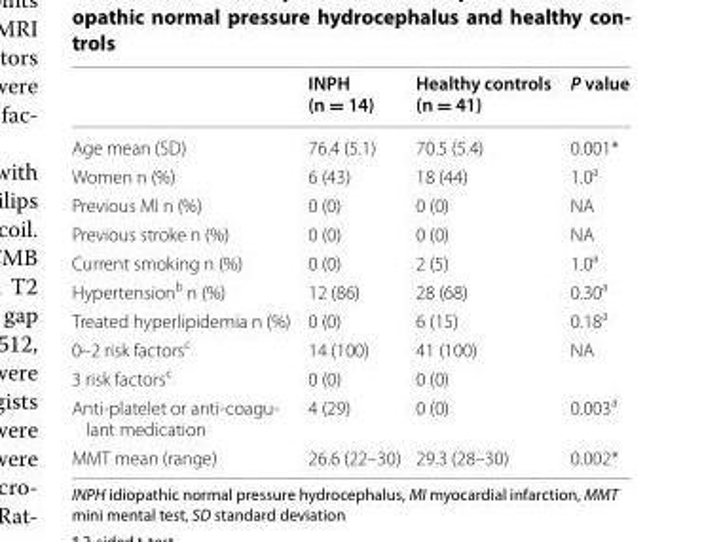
<table><thead><tr><td></td><td>INPH (n = 14)</td><td>Healthy controls (n = 41)</td><td>P value</td></tr></thead><tbody><tr><td>Age mean (SD)</td><td>76.4 (5.1)</td><td>70.5 (5.4)</td><td>0.001*</td></tr><tr><td>Women n (%)</td><td>6 (43)</td><td>18 (44)</td><td>1.0<sup>a</sup></td></tr><tr><td>Previous MI n (%)</td><td>0 (0)</td><td>0 (0)</td><td>NA</td></tr><tr><td>Previous stroke n (%)</td><td>0 (0)</td><td>0 (0)</td><td>NA</td></tr><tr><td>Current smoking n (%)</td><td>0 (0)</td><td>2 (5)</td><td>1.0<sup>a</sup></td></tr><tr><td>Hypertension<sup>b</sup> n (%)</td><td>12 (86)</td><td>28 (68)</td><td>0.30<sup>a</sup></td></tr><tr><td>Treated hyperlipidemia n (%)</td><td>0 (0)</td><td>6 (15)</td><td>0.18<sup>a</sup></td></tr><tr><td>0–2 risk factors<sup>c</sup></td><td>14 (100)</td><td>41 (100)</td><td rowspan="2">NA</td></tr><tr><td>3 risk factors<sup>c</sup></td><td>0 (0)</td><td>0 (0)</td></tr><tr><td>Anti-platelet or anti-coagu- lant medication</td><td>4 (29)</td><td>0 (0)</td><td>0.003<sup>a</sup></td></tr><tr><td>MMT mean (range)</td><td>26.6 (22–30)</td><td>29.3 (28–30)</td><td>0.002*</td></tr></tbody></table>